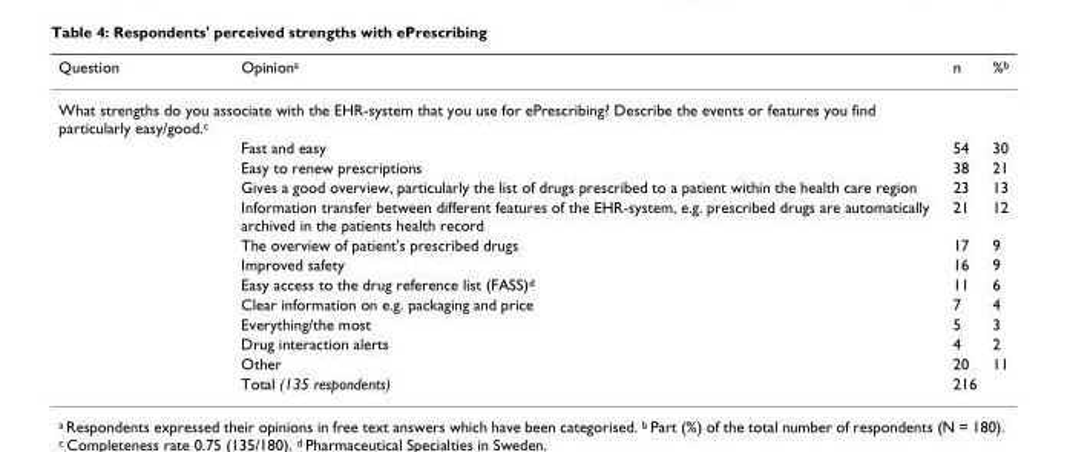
<table><thead><tr><td>Question</td><td>Opinion<sup>a</sup></td><td>n</td><td>%<sup>b</sup></td></tr></thead><tbody><tr><td colspan="4">What strengths do you associate with the EHR-system that you use for ePrescribing? Describe the events or features you find particularly easy/good.<sup>c</sup></td></tr><tr><td></td><td>Fast and easy</td><td>54</td><td>30</td></tr><tr><td></td><td>Easy to renew prescriptions</td><td>38</td><td>21</td></tr><tr><td></td><td>Gives a good overview, particularly the list of drugs prescribed to a patient within the health care region</td><td>23</td><td>13</td></tr><tr><td></td><td>Information transfer between different features of the EHR-system, e.g. prescribed drugs are automatically archived in the patients health record</td><td>21</td><td>12</td></tr><tr><td></td><td>The overview of patient&#x27;s prescribed drugs</td><td>17</td><td>9</td></tr><tr><td></td><td>Improved safety</td><td>16</td><td>9</td></tr><tr><td></td><td>Easy access to the drug reference list (FASS)<sup>d</sup></td><td>11</td><td>6</td></tr><tr><td></td><td>Clear information on e.g. packaging and price</td><td>7</td><td>4</td></tr><tr><td></td><td>Everything/the most</td><td>5</td><td>3</td></tr><tr><td></td><td>Drug interaction alerts</td><td>4</td><td>2</td></tr><tr><td></td><td>Other</td><td>20</td><td>11</td></tr><tr><td></td><td>Total (135 respondents)</td><td>216</td><td></td></tr></tbody></table>